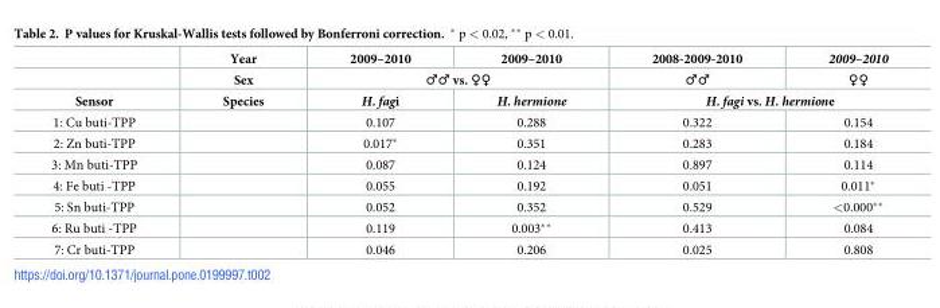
<table><thead><tr><td rowspan="3">Sensor</td><td rowspan="3">Year Sex Species</td><td>2009–2010</td><td>2009–2010</td><td rowspan="2">2008-2009-2010 ♂♂</td><td rowspan="2">2009–2010 ♀♀</td></tr><tr><td colspan="2">♂♂ vs. ♀♀</td></tr><tr><td>H. fagi</td><td>H. hermione</td><td colspan="2">H. fagi vs. H. hermione</td></tr></thead><tbody><tr><td>1: Cu buti-TPP</td><td></td><td>0.107</td><td>0.288</td><td>0.322</td><td>0.154</td></tr><tr><td>2: Zn buti-TPP</td><td></td><td>0.017*</td><td>0.351</td><td>0.283</td><td>0.184</td></tr><tr><td>3: Mn buti-TPP</td><td></td><td>0.087</td><td>0.124</td><td>0.897</td><td>0.114</td></tr><tr><td>4: Fe buti -TPP</td><td></td><td>0.055</td><td>0.192</td><td>0.051</td><td>0.011*</td></tr><tr><td>5: Sn buti-TPP</td><td></td><td>0.052</td><td>0.352</td><td>0.529</td><td>&lt;0.000**</td></tr><tr><td>6: Ru buti -TPP</td><td></td><td>0.119</td><td>0.003**</td><td>0.413</td><td>0.084</td></tr><tr><td>7: Cr buti-TPP</td><td></td><td>0.046</td><td>0.206</td><td>0.025</td><td>0.808</td></tr></tbody></table>